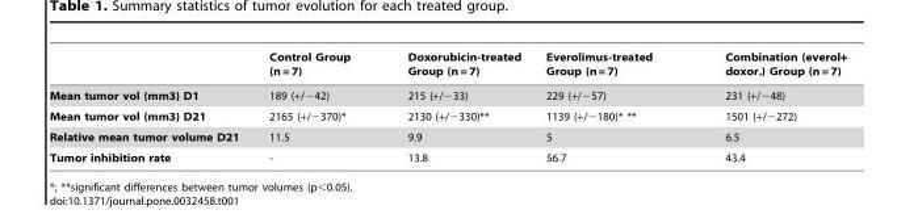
<table><thead><tr><td></td><td>Control Group (n = 7)</td><td>Doxorubicin-treated Group (n = 7)</td><td>Everolimus-treated Group (n = 7)</td><td>Combination (everol+ doxor.) Group (n = 7)</td></tr></thead><tbody><tr><td>Mean tumor vol (mm3) D1</td><td>189 (+/−42)</td><td>215 (+/−33)</td><td>229 (+/−57)</td><td>231 (+/−48)</td></tr><tr><td>Mean tumor vol (mm3) D21</td><td>2165 (+/−370)*</td><td>2130 (+/−330)**</td><td>1139 (+/−180)* **</td><td>1501 (+/−272)</td></tr><tr><td>Relative mean tumor volume D21</td><td>11.5</td><td>9.9</td><td>5</td><td>6.5</td></tr><tr><td>Tumor inhibition rate</td><td>-</td><td>13.8</td><td>56.7</td><td>43.4</td></tr></tbody></table>